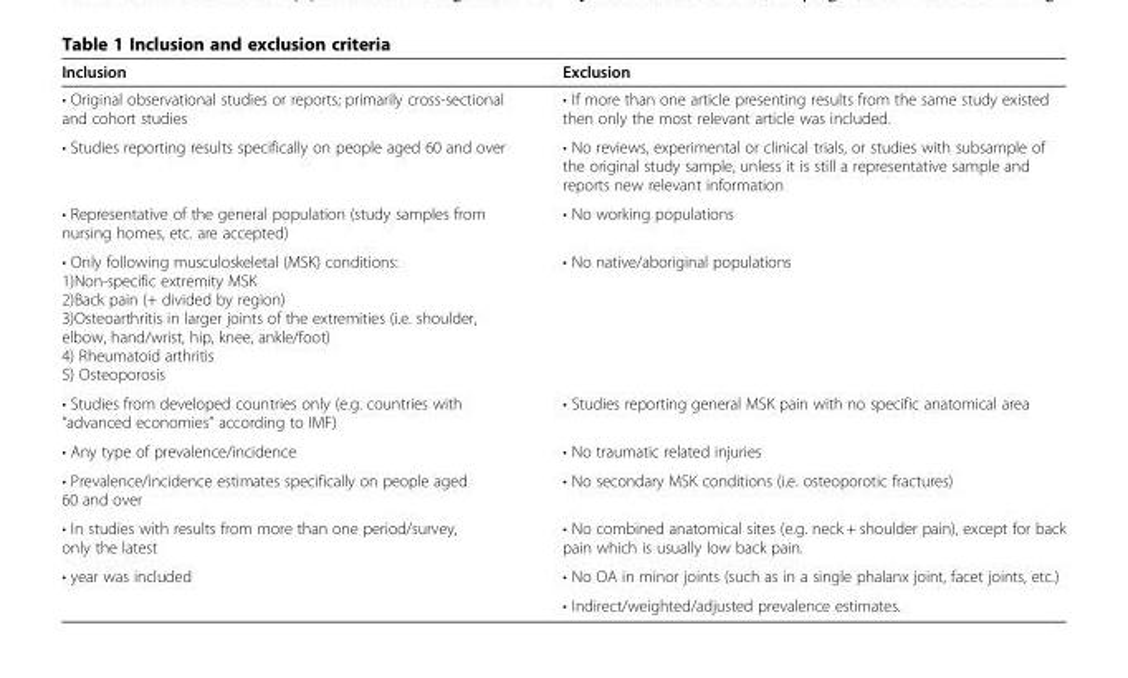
<table><thead><tr><td>Inclusion</td><td>Exclusion</td></tr></thead><tbody><tr><td>• Original observational studies or reports; primarily cross-sectional and cohort studies</td><td>• If more than one article presenting results from the same study existed then only the most relevant article was included.</td></tr><tr><td>• Studies reporting results specifically on people aged 60 and over</td><td>• No reviews, experimental or clinical trials, or studies with subsample of the original study sample, unless it is still a representative sample and reports new relevant information</td></tr><tr><td>• Representative of the general population (study samples from nursing homes, etc. are accepted)</td><td>• No working populations</td></tr><tr><td>• Only following musculoskeletal (MSK) conditions: 1)Non-specific extremity MSK 2)Back pain (+ divided by region) 3)Osteoarthritis in larger joints of the extremities (i.e. shoulder, elbow, hand/wrist, hip, knee, ankle/foot) 4) Rheumatoid arthritis 5) Osteoporosis</td><td>• No native/aboriginal populations</td></tr><tr><td>• Studies from developed countries only (e.g. countries with “advanced economies” according to IMF)</td><td>• Studies reporting general MSK pain with no specific anatomical area</td></tr><tr><td>• Any type of prevalence/incidence</td><td>• No traumatic related injuries</td></tr><tr><td>• Prevalence/incidence estimates specifically on people aged 60 and over</td><td>• No secondary MSK conditions (i.e. osteoporotic fractures)</td></tr><tr><td>• In studies with results from more than one period/survey, only the latest</td><td>• No combined anatomical sites (e.g. neck + shoulder pain), except for back pain which is usually low back pain.</td></tr><tr><td rowspan="2">• year was included</td><td>• No OA in minor joints (such as in a single phalanx joint, facet joints, etc.)</td></tr><tr><td>• Indirect/weighted/adjusted prevalence estimates.</td></tr></tbody></table>